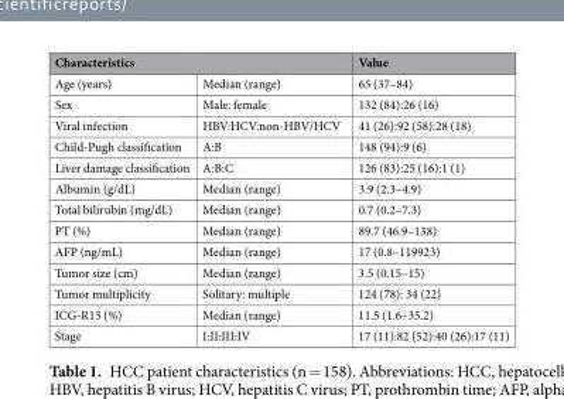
<table><thead><tr><td colspan="2">Characteristics</td><td rowspan="2">Value 65 (37–84)</td></tr><tr><td>Age (years)</td><td>Median (range)</td></tr></thead><tbody><tr><td>Sex</td><td>Male: female</td><td>132 (84):26 (16)</td></tr><tr><td>Viral infection</td><td>HBV:HCV:non-HBV/HCV</td><td>41 (26):92 (58):28 (18)</td></tr><tr><td>Child-Pugh classification</td><td>A:B</td><td>148 (94):9 (6)</td></tr><tr><td>Liver damage classification</td><td>A:B:C</td><td>126 (83):25 (16):1 (1)</td></tr><tr><td>Albumin (g/dL)</td><td>Median (range)</td><td>3.9 (2.3–4.9)</td></tr><tr><td>Total bilirubin (mg/dL)</td><td>Median (range)</td><td>0.7 (0.2–7.3)</td></tr><tr><td>PT (%)</td><td>Median (range)</td><td>89.7 (46.9–138)</td></tr><tr><td>AFP (ng/mL)</td><td>Median (range)</td><td>17 (0.8–119923)</td></tr><tr><td>Tumor size (cm)</td><td>Median (range)</td><td>3.5 (0.15–15)</td></tr><tr><td>Tumor multiplicity</td><td>Solitary: multiple</td><td>124 (78): 34 (22)</td></tr><tr><td>ICG-R15 (%)</td><td>Median (range)</td><td>11.5 (1.6–35.2)</td></tr><tr><td>Stage</td><td>I:II:III:IV</td><td>17 (11):82 (52):40 (26):17 (11)</td></tr></tbody></table>